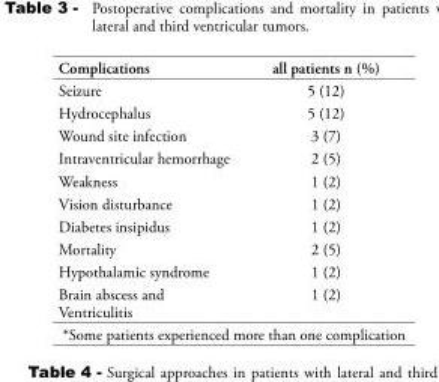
<table><thead><tr><td>Complications</td><td>all patients n (%)</td></tr></thead><tbody><tr><td>Seizure</td><td>5 (12)</td></tr><tr><td>Hydrocephalus</td><td>5 (12)</td></tr><tr><td>Wound site infection</td><td>3 (7)</td></tr><tr><td>Intraventricular hemorrhage</td><td>2 (5)</td></tr><tr><td>Weakness</td><td>1 (2)</td></tr><tr><td>Vision disturbance</td><td>1 (2)</td></tr><tr><td>Diabetes insipidus</td><td>1 (2)</td></tr><tr><td>Mortality</td><td>2 (5)</td></tr><tr><td>Hypothalamic syndrome</td><td>1 (2)</td></tr><tr><td>Brain abscess and Ventriculitis</td><td>1 (2)</td></tr></tbody></table>